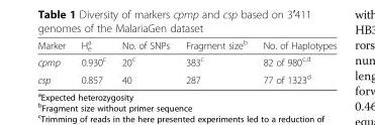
<table><thead><tr><td>Marker</td><td>H<sub>e</sub> <sup>a</sup></td><td>No. of SNPs</td><td>Fragment size<sup>b</sup></td><td>No. of Haplotypes</td></tr></thead><tbody><tr><td>cpmp</td><td>0.930<sup>c</sup></td><td>20<sup>c</sup></td><td>383<sup>c</sup></td><td>82 of 980<sup>c,d</sup></td></tr><tr><td>csp</td><td>0.857</td><td>40</td><td>287</td><td>77 of 1323<sup>d</sup></td></tr></tbody></table>